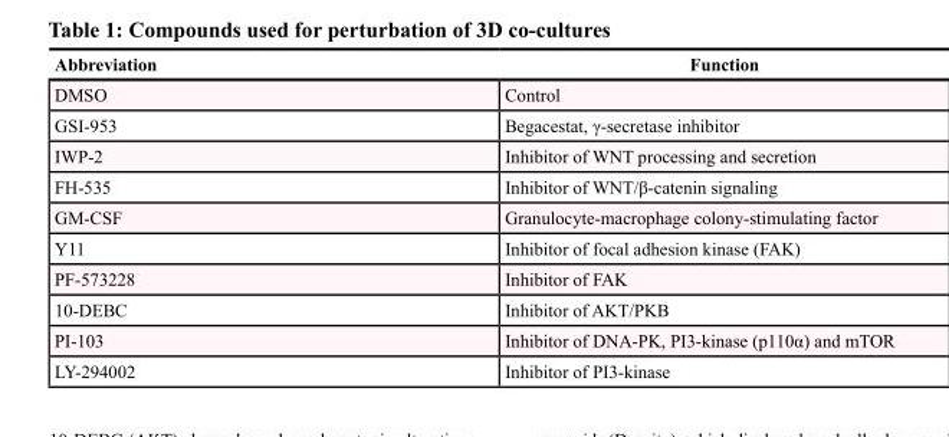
<table><thead><tr><td>Abbreviation</td><td>Function</td></tr></thead><tbody><tr><td>DMSO</td><td>Control</td></tr><tr><td>GSI-953</td><td>Begacestat, γ-secretase inhibitor</td></tr><tr><td>IWP-2</td><td>Inhibitor of WNT processing and secretion</td></tr><tr><td>FH-535</td><td>Inhibitor of WNT/β-catenin signaling</td></tr><tr><td>GM-CSF</td><td>Granulocyte-macrophage colony-stimulating factor</td></tr><tr><td>Y11</td><td>Inhibitor of focal adhesion kinase (FAK)</td></tr><tr><td>PF-573228</td><td>Inhibitor of FAK</td></tr><tr><td>10-DEBC</td><td>Inhibitor of AKT/PKB</td></tr><tr><td>PI-103</td><td>Inhibitor of DNA-PK, PI3-kinase (p110α) and mTOR</td></tr><tr><td>LY-294002</td><td>Inhibitor of PI3-kinase</td></tr></tbody></table>